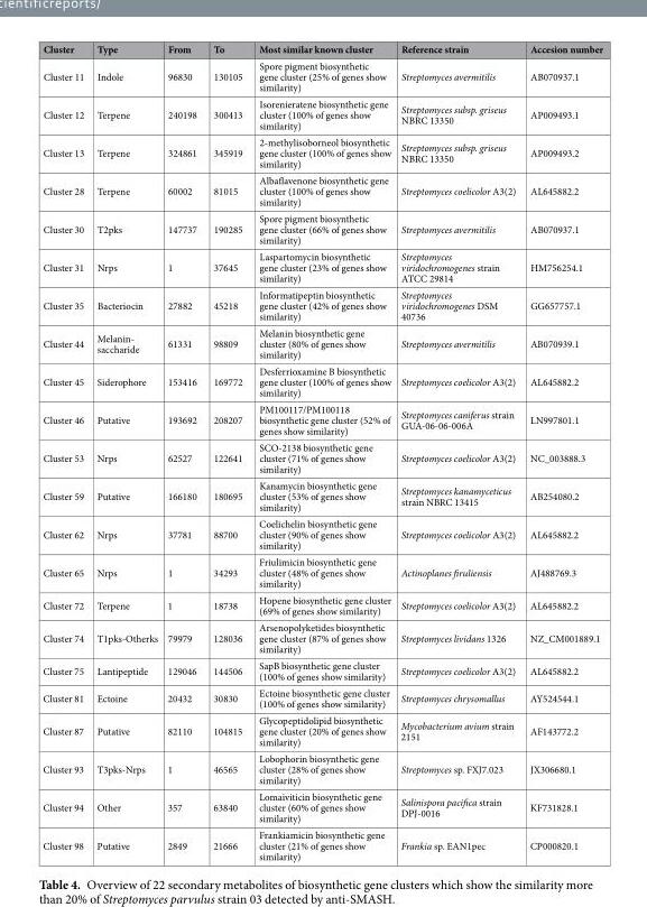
<table><thead><tr><td>Cluster</td><td>Type</td><td>From</td><td>To</td><td>Most similar known cluster</td><td>Reference strain</td><td>Accesion number</td></tr></thead><tbody><tr><td>Cluster 11</td><td>Indole</td><td>96830</td><td>130105</td><td>Spore pigment biosynthetic gene cluster (25% of genes show similarity)</td><td>Streptomyces avermitilis</td><td>AB070937.1</td></tr><tr><td>Cluster 12</td><td>Terpene</td><td>240198</td><td>300413</td><td>Isorenieratene biosynthetic gene cluster (100% of genes show similarity)</td><td>Streptomyces subsp. griseus NBRC 13350</td><td>AP009493.1</td></tr><tr><td>Cluster 13</td><td>Terpene</td><td>324861</td><td>345919</td><td>2-methylisoborneol biosynthetic gene cluster (100% of genes show similarity)</td><td>Streptomyces subsp. griseus NBRC 13350</td><td>AP009493.2</td></tr><tr><td>Cluster 28</td><td>Terpene</td><td>60002</td><td>81015</td><td>Albaflavenone biosynthetic gene cluster (100% of genes show similarity)</td><td>Streptomyces coelicolor A3(2)</td><td>AL645882.2</td></tr><tr><td>Cluster 30</td><td>T2pks</td><td>147737</td><td>190285</td><td>Spore pigment biosynthetic gene cluster (66% of genes show similarity)</td><td>Streptomyces avermitilis</td><td>AB070937.1</td></tr><tr><td>Cluster 31</td><td>Nrps</td><td>1</td><td>37645</td><td>Laspartomycin biosynthetic gene cluster (23% of genes show similarity)</td><td>Streptomyces viridochromogenes strain ATCC 29814</td><td>HM756254.1</td></tr><tr><td>Cluster 35</td><td>Bacteriocin</td><td>27882</td><td>45218</td><td>Informatipeptin biosynthetic gene cluster (42% of genes show similarity)</td><td>Streptomyces viridochromogenes DSM 40736</td><td>GG657757.1</td></tr><tr><td>Cluster 44</td><td>Melanin- saccharide</td><td>61331</td><td>98809</td><td>Melanin biosynthetic gene cluster (80% of genes show similarity)</td><td>Streptomyces avermitilis</td><td>AB070939.1</td></tr><tr><td>Cluster 45</td><td>Siderophore</td><td>153416</td><td>169772</td><td>Desferrioxamine B biosynthetic gene cluster (100% of genes show similarity)</td><td>Streptomyces coelicolor A3(2)</td><td>AL645882.2</td></tr><tr><td>Cluster 46</td><td>Putative</td><td>193692</td><td>208207</td><td>PM100117/PM100118 biosynthetic gene cluster (52% of genes show similarity)</td><td>Streptomyces caniferus strain GUA-06-06-006A</td><td>LN997801.1</td></tr><tr><td>Cluster 53</td><td>Nrps</td><td>62527</td><td>122641</td><td>SCO-2138 biosynthetic gene cluster (71% of genes show similarity)</td><td>Streptomyces coelicolor A3(2)</td><td>NC_003888.3</td></tr><tr><td>Cluster 59</td><td>Putative</td><td>166180</td><td>180695</td><td>Kanamycin biosynthetic gene cluster (53% of genes show similarity)</td><td>Streptomyces kanamyceticus strain NBRC 13415</td><td>AB254080.2</td></tr><tr><td>Cluster 62</td><td>Nrps</td><td>37781</td><td>88700</td><td>Coelichelin biosynthetic gene cluster (90% of genes show similarity)</td><td>Streptomyces coelicolor A3(2)</td><td>AL645882.2</td></tr><tr><td>Cluster 65</td><td>Nrps</td><td>1</td><td>34293</td><td>Friulimicin biosynthetic gene cluster (48% of genes show similarity)</td><td>Actinoplanes firuliensis</td><td>AJ488769.3</td></tr><tr><td>Cluster 72</td><td>Terpene</td><td>1</td><td>18738</td><td>Hopene biosynthetic gene cluster (69% of genes show similarity)</td><td>Streptomyces coelicolor A3(2)</td><td>AL645882.2</td></tr><tr><td>Cluster 74</td><td>T1pks-Otherks</td><td>79979</td><td>128036</td><td>Arsenopolyketides biosynthetic gene cluster (87% of genes show similarity)</td><td>Streptomyces lividans 1326</td><td>NZ_CM001889.1</td></tr><tr><td>Cluster 75</td><td>Lantipeptide</td><td>129046</td><td>144506</td><td>SapB biosynthetic gene cluster (100% of genes show similarity)</td><td>Streptomyces coelicolor A3(2)</td><td>AL645882.2</td></tr><tr><td>Cluster 81</td><td>Ectoine</td><td>20432</td><td>30830</td><td>Ectoine biosynthetic gene cluster (100% of genes show similarity)</td><td>Streptomyces chrysomallus</td><td>AY524544.1</td></tr><tr><td>Cluster 87</td><td>Putative</td><td>82110</td><td>104815</td><td>Glycopeptidolipid biosynthetic gene cluster (20% of genes show similarity)</td><td>Mycobacterium avium strain 2151</td><td>AF143772.2</td></tr><tr><td>Cluster 93</td><td>T3pks-Nrps</td><td>1</td><td>46565</td><td>Lobophorin biosynthetic gene cluster (28% of genes show similarity)</td><td>Streptomyces sp. FXJ7.023</td><td>JX306680.1</td></tr><tr><td>Cluster 94</td><td>Other</td><td>357</td><td>63840</td><td>Lomaiviticin biosynthetic gene cluster (60% of genes show similarity)</td><td>Salinispora pacifica strain DPJ-0016</td><td>KF731828.1</td></tr><tr><td>Cluster 98</td><td>Putative</td><td>2849</td><td>21666</td><td>Frankiamicin biosynthetic gene cluster (21% of genes show similarity)</td><td>Frankia sp. EAN1pec</td><td>CP000820.1</td></tr></tbody></table>